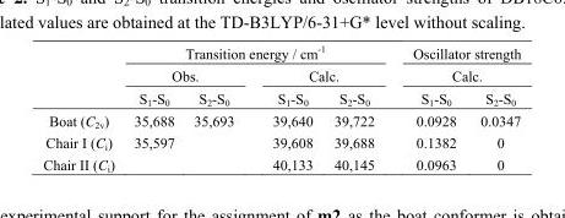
<table><thead><tr><td rowspan="3"></td><td colspan="4">Transition energy / cm<sup>-1</sup></td><td rowspan="2" colspan="2">Oscillator strength Calc.</td></tr><tr><td colspan="2">Obs.</td><td colspan="2">Calc.</td></tr><tr><td>S<sub>1</sub>-S<sub>0</sub></td><td>S<sub>2</sub>-S<sub>0</sub></td><td>S<sub>1</sub>-S<sub>0</sub></td><td>S<sub>2</sub>-S<sub>0</sub></td><td>S<sub>1</sub>-S<sub>0</sub></td><td>S<sub>2</sub>-S<sub>0</sub></td></tr></thead><tbody><tr><td>Boat (C<sub>2v</sub>)</td><td>35,688</td><td>35,693</td><td>39,640</td><td>39,722</td><td>0.0928</td><td>0.0347</td></tr><tr><td>Chair I (C<sub>i</sub>)</td><td>35,597</td><td></td><td>39,608</td><td>39,688</td><td>0.1382</td><td>0</td></tr><tr><td>Chair II (C<sub>i</sub>)</td><td></td><td></td><td>40,133</td><td>40,145</td><td>0.0963</td><td>0</td></tr></tbody></table>